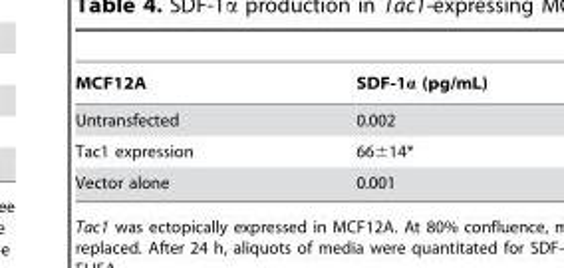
<table><thead><tr><td>MCF12A</td><td>SDF-1α (pg/mL)</td></tr></thead><tbody><tr><td>Untransfected</td><td>0.002</td></tr><tr><td>Tac1 expression</td><td>66±14*</td></tr><tr><td>Vector alone</td><td>0.001</td></tr></tbody></table>